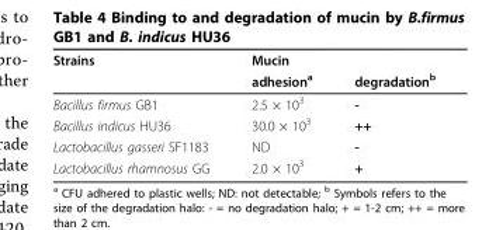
<table><thead><tr><td rowspan="2">Strains</td><td rowspan="2">Mucin adhesion<sup>a</sup></td><td rowspan="2">degradation<sup>b</sup></td></tr><tr></tr></thead><tbody><tr><td>Bacillus firmus GB1</td><td>2.5 × 10<sup>3</sup></td><td>-</td></tr><tr><td>Bacillus indicus HU36</td><td>30.0 × 10<sup>3</sup></td><td>++</td></tr><tr><td>Lactobacillus gasseri SF1183</td><td>ND</td><td>-</td></tr><tr><td>Lactobacillus rhamnosus GG</td><td>2.0 × 10<sup>3</sup></td><td>+</td></tr></tbody></table>